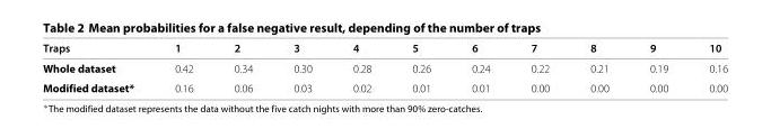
<table><thead><tr><td>Traps</td><td>1</td><td>2</td><td>3</td><td>4</td><td>5</td><td>6</td><td>7</td><td>8</td><td>9</td><td>10</td></tr></thead><tbody><tr><td>Whole dataset</td><td>0.42</td><td>0.34</td><td>0.30</td><td>0.28</td><td>0.26</td><td>0.24</td><td>0.22</td><td>0.21</td><td>0.19</td><td>0.16</td></tr><tr><td>Modified dataset*</td><td>0.16</td><td>0.06</td><td>0.03</td><td>0.02</td><td>0.01</td><td>0.01</td><td>0.00</td><td>0.00</td><td>0.00</td><td>0.00</td></tr></tbody></table>